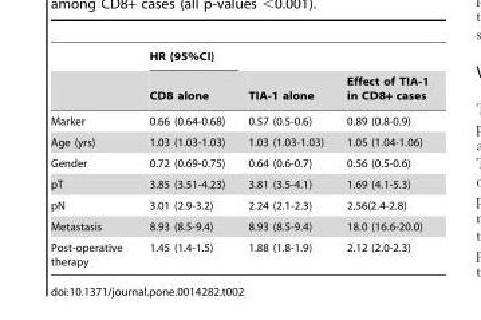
<table><thead><tr><td rowspan="2"></td><td rowspan="2">HR (95%CI) CD8 alone</td><td rowspan="2">TIA-1 alone</td><td rowspan="2">Effect of TIA-1 in CD8+ cases</td></tr><tr></tr></thead><tbody><tr><td>Marker</td><td>0.66 (0.64-0.68)</td><td>0.57 (0.5-0.6)</td><td>0.89 (0.8-0.9)</td></tr><tr><td>Age (yrs)</td><td>1.03 (1.03-1.03)</td><td>1.03 (1.03-1.03)</td><td>1.05 (1.04-1.06)</td></tr><tr><td>Gender</td><td>0.72 (0.69-0.75)</td><td>0.64 (0.6-0.7)</td><td>0.56 (0.5-0.6)</td></tr><tr><td>pT</td><td>3.85 (3.51-4.23)</td><td>3.81 (3.5-4.1)</td><td>1.69 (4.1-5.3)</td></tr><tr><td>pN</td><td>3.01 (2.9-3.2)</td><td>2.24 (2.1-2.3)</td><td>2.56(2.4-2.8)</td></tr><tr><td>Metastasis</td><td>8.93 (8.5-9.4)</td><td>8.93 (8.5-9.4)</td><td>18.0 (16.6-20.0)</td></tr><tr><td>Post-operative therapy</td><td>1.45 (1.4-1.5)</td><td>1.88 (1.8-1.9)</td><td>2.12 (2.0-2.3)</td></tr></tbody></table>